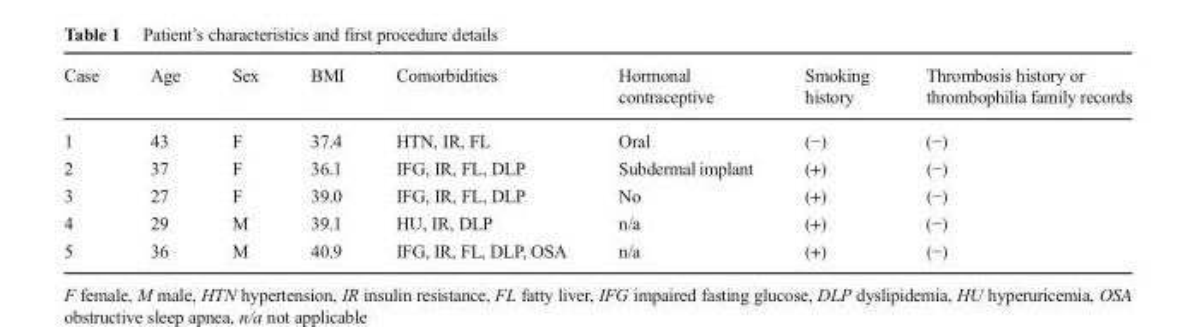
<table><thead><tr><td>Case</td><td>Age</td><td>Sex</td><td>BMI</td><td>Comorbidities</td><td>Hormonal contraceptive</td><td>Smoking history</td><td>Thrombosis history or thrombophilia family records</td></tr></thead><tbody><tr><td>1</td><td>43</td><td>F</td><td>37.4</td><td>HTN, IR, FL</td><td>Oral</td><td>(−)</td><td>(−)</td></tr><tr><td>2</td><td>37</td><td>F</td><td>36.1</td><td>IFG, IR, FL, DLP</td><td>Subdermal implant</td><td>(+)</td><td>(−)</td></tr><tr><td>3</td><td>27</td><td>F</td><td>39.0</td><td>IFG, IR, FL, DLP</td><td>No</td><td>(+)</td><td>(−)</td></tr><tr><td>4</td><td>29</td><td>M</td><td>39.1</td><td>HU, IR, DLP</td><td>n/a</td><td>(+)</td><td>(−)</td></tr><tr><td>5</td><td>36</td><td>M</td><td>40.9</td><td>IFG, IR, FL, DLP, OSA</td><td>n/a</td><td>(+)</td><td>(−)</td></tr></tbody></table>